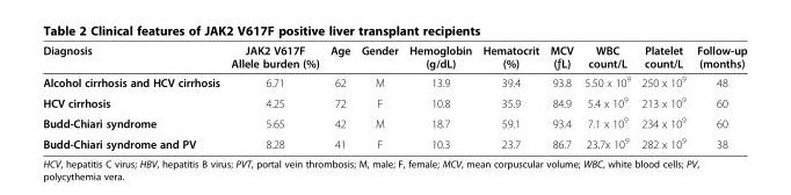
<table><thead><tr><td>Diagnosis</td><td>JAK2 V617F Allele burden (%)</td><td>Age</td><td>Gender</td><td>Hemoglobin (g/dL)</td><td>Hematocrit (%)</td><td>MCV (ƒL)</td><td>WBC count/L</td><td>Platelet count/L</td><td>Follow-up (months)</td></tr></thead><tbody><tr><td>Alcohol cirrhosis and HCV cirrhosis</td><td>6.71</td><td>62</td><td>M</td><td>13.9</td><td>39.4</td><td>93.8</td><td>5.50 x 10<sup>9</sup></td><td>250 x 10<sup>9</sup></td><td>48</td></tr><tr><td>HCV cirrhosis</td><td>4.25</td><td>72</td><td>F</td><td>10.8</td><td>35.9</td><td>84.9</td><td>5.4 x 10<sup>9</sup></td><td>213 x 10<sup>9</sup></td><td>60</td></tr><tr><td>Budd-Chiari syndrome</td><td>5.65</td><td>42</td><td>M</td><td>18.7</td><td>59.1</td><td>93.4</td><td>7.1 x 10<sup>9</sup></td><td>234 x 10<sup>9</sup></td><td>60</td></tr><tr><td>Budd-Chiari syndrome and PV</td><td>8.28</td><td>41</td><td>F</td><td>10.3</td><td>23.7</td><td>86.7</td><td>23.7x 10<sup>9</sup></td><td>282 x 10<sup>9</sup></td><td>38</td></tr></tbody></table>